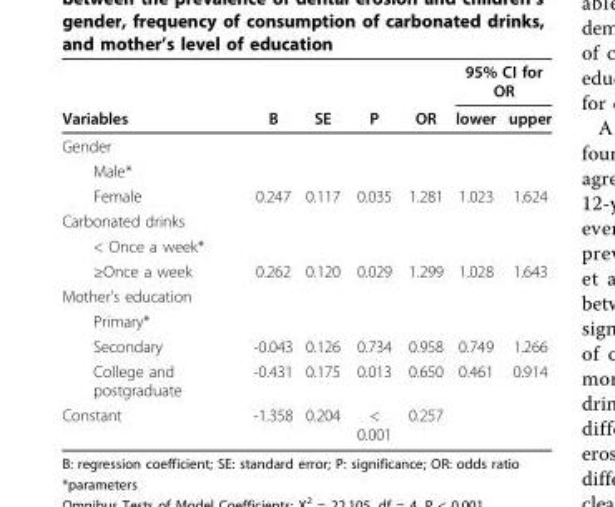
<table><thead><tr><td rowspan="2">Variables</td><td rowspan="2">B</td><td rowspan="2">SE</td><td rowspan="2">P</td><td rowspan="2">OR</td><td colspan="2">95% CI for OR</td></tr><tr><td>lower</td><td>upper</td></tr></thead><tbody><tr><td colspan="7">Gender</td></tr><tr><td colspan="7">Male*</td></tr><tr><td>Female</td><td>0.247</td><td>0.117</td><td>0.035</td><td>1.281</td><td>1.023</td><td>1.624</td></tr><tr><td colspan="7">Carbonated drinks</td></tr><tr><td colspan="7">&lt; Once a week*</td></tr><tr><td>≥Once a week</td><td>0.262</td><td>0.120</td><td>0.029</td><td>1.299</td><td>1.028</td><td>1.643</td></tr><tr><td colspan="7">Mother’s education</td></tr><tr><td colspan="7">Primary*</td></tr><tr><td>Secondary</td><td>-0.043</td><td>0.126</td><td>0.734</td><td>0.958</td><td>0.749</td><td>1.266</td></tr><tr><td>College and postgraduate</td><td>-0.431</td><td>0.175</td><td>0.013</td><td>0.650</td><td>0.461</td><td>0.914</td></tr><tr><td>Constant</td><td>-1.358</td><td>0.204</td><td>&lt; 0.001</td><td>0.257</td><td></td><td></td></tr></tbody></table>